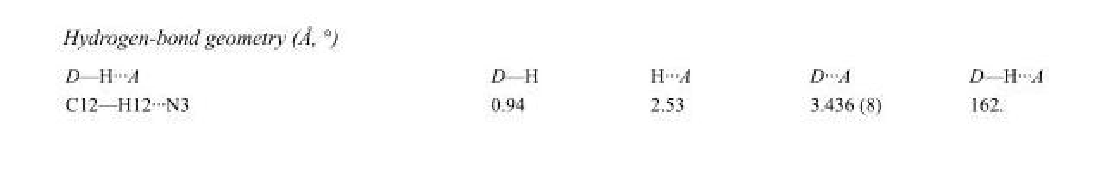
<table><tbody><tr><td>D—H···A</td><td>D—H</td><td>H···A</td><td>D···A</td><td>D—H···A</td></tr><tr><td>C12—H12···N3</td><td>0.94</td><td>2.53</td><td>3.436 (8)</td><td>162.</td></tr></tbody></table>